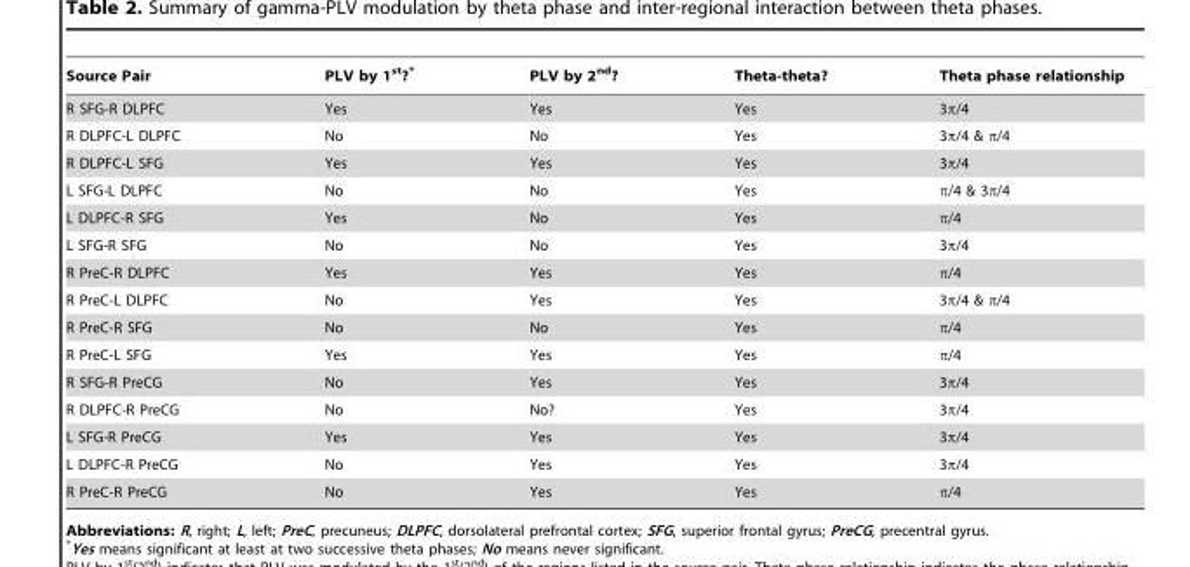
<table><thead><tr><td>Source Pair</td><td>PLV by 1<sup>st</sup>?*</td><td>PLV by 2<sup>nd</sup>?</td><td>Theta-theta?</td><td>Theta phase relationship</td></tr></thead><tbody><tr><td>R SFG-R DLPFC</td><td>Yes</td><td>Yes</td><td>Yes</td><td>3π/4</td></tr><tr><td>R DLPFC-L DLPFC</td><td>No</td><td>No</td><td>Yes</td><td>3π/4 &amp; π/4</td></tr><tr><td>R DLPFC-L SFG</td><td>Yes</td><td>Yes</td><td>Yes</td><td>3π/4</td></tr><tr><td>L SFG-L DLPFC</td><td>No</td><td>No</td><td>Yes</td><td>π/4 &amp; 3π/4</td></tr><tr><td>L DLPFC-R SFG</td><td>Yes</td><td>No</td><td>Yes</td><td>π/4</td></tr><tr><td>L SFG-R SFG</td><td>No</td><td>No</td><td>Yes</td><td>3π/4</td></tr><tr><td>R PreC-R DLPFC</td><td>Yes</td><td>Yes</td><td>Yes</td><td>π/4</td></tr><tr><td>R PreC-L DLPFC</td><td>No</td><td>Yes</td><td>Yes</td><td>3π/4 &amp; π/4</td></tr><tr><td>R PreC-R SFG</td><td>No</td><td>No</td><td>Yes</td><td>π/4</td></tr><tr><td>R PreC-L SFG</td><td>Yes</td><td>Yes</td><td>Yes</td><td>π/4</td></tr><tr><td>R SFG-R PreCG</td><td>No</td><td>Yes</td><td>Yes</td><td>3π/4</td></tr><tr><td>R DLPFC-R PreCG</td><td>No</td><td>No?</td><td>Yes</td><td>3π/4</td></tr><tr><td>L SFG-R PreCG</td><td>Yes</td><td>Yes</td><td>Yes</td><td>3π/4</td></tr><tr><td>L DLPFC-R PreCG</td><td>No</td><td>Yes</td><td>Yes</td><td>3π/4</td></tr><tr><td>R PreC-R PreCG</td><td>No</td><td>Yes</td><td>Yes</td><td>π/4</td></tr></tbody></table>